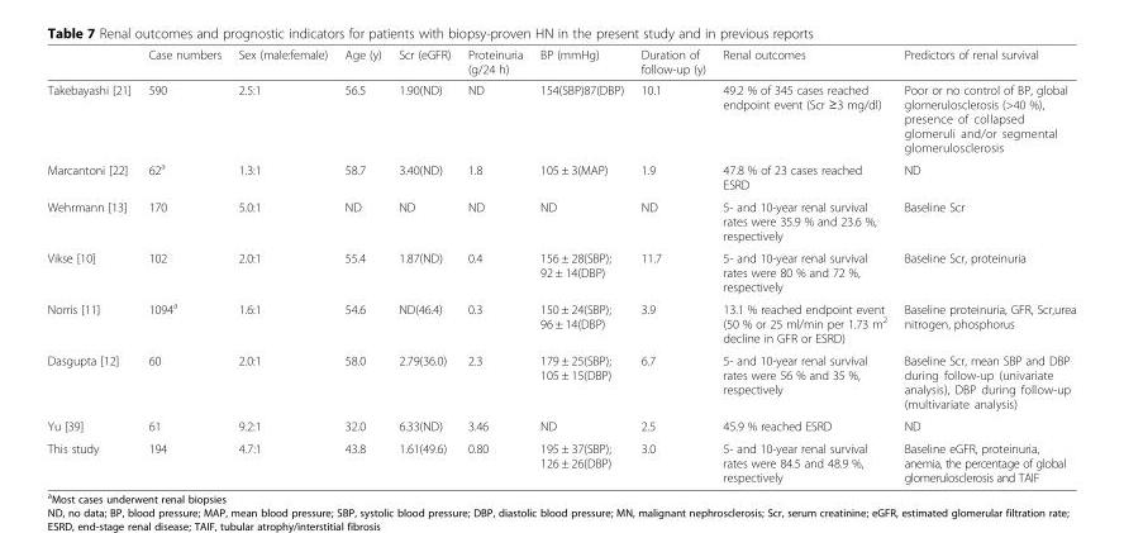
<table><thead><tr><td></td><td>Case numbers</td><td>Sex (male:female)</td><td>Age (y)</td><td>Scr (eGFR)</td><td>Proteinuria (g/24 h)</td><td>BP (mmHg)</td><td>Duration of follow-up (y)</td><td>Renal outcomes</td><td>Predictors of renal survival</td></tr></thead><tbody><tr><td>Takebayashi [21]</td><td>590</td><td>2.5:1</td><td>56.5</td><td>1.90(ND)</td><td>ND</td><td>154(SBP)87(DBP)</td><td>10.1</td><td>49.2 % of 345 cases reached endpoint event (Scr ≥3 mg/dl)</td><td>Poor or no control of BP, global glomerulosclerosis (&gt;40 %), presence of collapsed glomeruli and/or segmental glomerulosclerosis</td></tr><tr><td>Marcantoni [22]</td><td>62<sup>a</sup></td><td>1.3:1</td><td>58.7</td><td>3.40(ND)</td><td>1.8</td><td>105 ± 3(MAP)</td><td>1.9</td><td>47.8 % of 23 cases reached ESRD</td><td>ND</td></tr><tr><td>Wehrmann [13]</td><td>170</td><td>5.0:1</td><td>ND</td><td>ND</td><td>ND</td><td>ND</td><td>ND</td><td>5- and 10-year renal survival rates were 35.9 % and 23.6 %, respectively</td><td>Baseline Scr</td></tr><tr><td>Vikse [10]</td><td>102</td><td>2.0:1</td><td>55.4</td><td>1.87(ND)</td><td>0.4</td><td>156 ± 28(SBP); 92 ± 14(DBP)</td><td>11.7</td><td>5- and 10-year renal survival rates were 80 % and 72 %, respectively</td><td>Baseline Scr, proteinuria</td></tr><tr><td>Norris [11]</td><td>1094<sup>a</sup></td><td>1.6:1</td><td>54.6</td><td>ND(46.4)</td><td>0.3</td><td>150 ± 24(SBP); 96 ± 14(DBP)</td><td>3.9</td><td>13.1 % reached endpoint event (50 % or 25 ml/min per 1.73 m<sup>2</sup> decline in GFR or ESRD)</td><td>Baseline proteinuria, GFR, Scr,urea nitrogen, phosphorus</td></tr><tr><td>Dasgupta [12]</td><td>60</td><td>2.0:1</td><td>58.0</td><td>2.79(36.0)</td><td>2.3</td><td>179 ± 25(SBP); 105 ± 15(DBP)</td><td>6.7</td><td>5- and 10-year renal survival rates were 56 % and 35 %, respectively</td><td>Baseline Scr, mean SBP and DBP during follow-up (univariate analysis), DBP during follow-up (multivariate analysis)</td></tr><tr><td>Yu [39]</td><td>61</td><td>9.2:1</td><td>32.0</td><td>6.33(ND)</td><td>3.46</td><td>ND</td><td>2.5</td><td>45.9 % reached ESRD</td><td>ND</td></tr><tr><td>This study</td><td>194</td><td>4.7:1</td><td>43.8</td><td>1.61(49.6)</td><td>0.80</td><td>195 ± 37(SBP); 126 ± 26(DBP)</td><td>3.0</td><td>5- and 10-year renal survival rates were 84.5 and 48.9 %, respectively</td><td>Baseline eGFR, proteinuria, anemia, the percentage of global glomerulosclerosis and TAIF</td></tr></tbody></table>